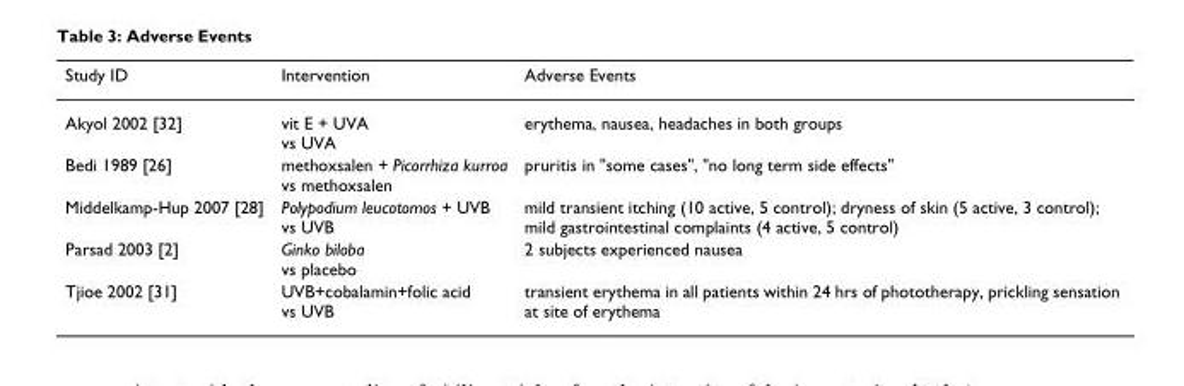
<table><thead><tr><td>Study ID</td><td>Intervention</td><td>Adverse Events</td></tr></thead><tbody><tr><td>Akyol 2002 [32]</td><td>vit E + UVA vs UVA</td><td>erythema, nausea, headaches in both groups</td></tr><tr><td>Bedi 1989 [26]</td><td>methoxsalen + Picorrhiza kurroa vs methoxsalen</td><td>pruritis in &quot;some cases&quot;, &quot;no long term side effects&quot;</td></tr><tr><td>Middelkamp-Hup 2007 [28]</td><td>Polypodium leucotomos + UVB vs UVB</td><td>mild transient itching (10 active, 5 control); dryness of skin (5 active, 3 control); mild gastrointestinal complaints (4 active, 5 control)</td></tr><tr><td>Parsad 2003 [2]</td><td>Ginko biloba vs placebo</td><td>2 subjects experienced nausea</td></tr><tr><td>Tjioe 2002 [31]</td><td>UVB+cobalamin+folic acid vs UVB</td><td>transient erythema in all patients within 24 hrs of phototherapy, prickling sensation at site of erythema</td></tr></tbody></table>